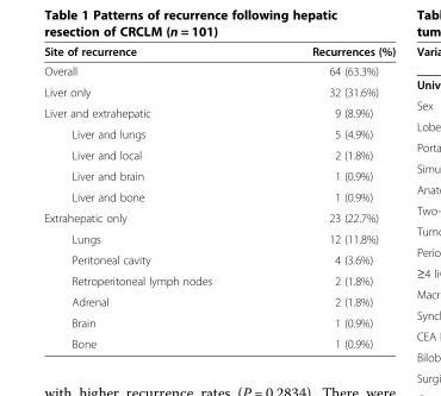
<table><thead><tr><td>Site of recurrence</td><td>Recurrences (%)</td></tr></thead><tbody><tr><td>Overall</td><td>64 (63.3%)</td></tr><tr><td>Liver only</td><td>32 (31.6%)</td></tr><tr><td>Liver and extrahepatic</td><td>9 (8.9%)</td></tr><tr><td>Liver and lungs</td><td>5 (4.9%)</td></tr><tr><td>Liver and local</td><td>2 (1.8%)</td></tr><tr><td>Liver and brain</td><td>1 (0.9%)</td></tr><tr><td>Liver and bone</td><td>1 (0.9%)</td></tr><tr><td>Extrahepatic only</td><td>23 (22.7%)</td></tr><tr><td>Lungs</td><td>12 (11.8%)</td></tr><tr><td>Peritoneal cavity</td><td>4 (3.6%)</td></tr><tr><td>Retroperitoneal lymph nodes</td><td>2 (1.8%)</td></tr><tr><td>Adrenal</td><td>2 (1.8%)</td></tr><tr><td>Brain</td><td>1 (0.9%)</td></tr><tr><td>Bone</td><td>1 (0.9%)</td></tr></tbody></table>